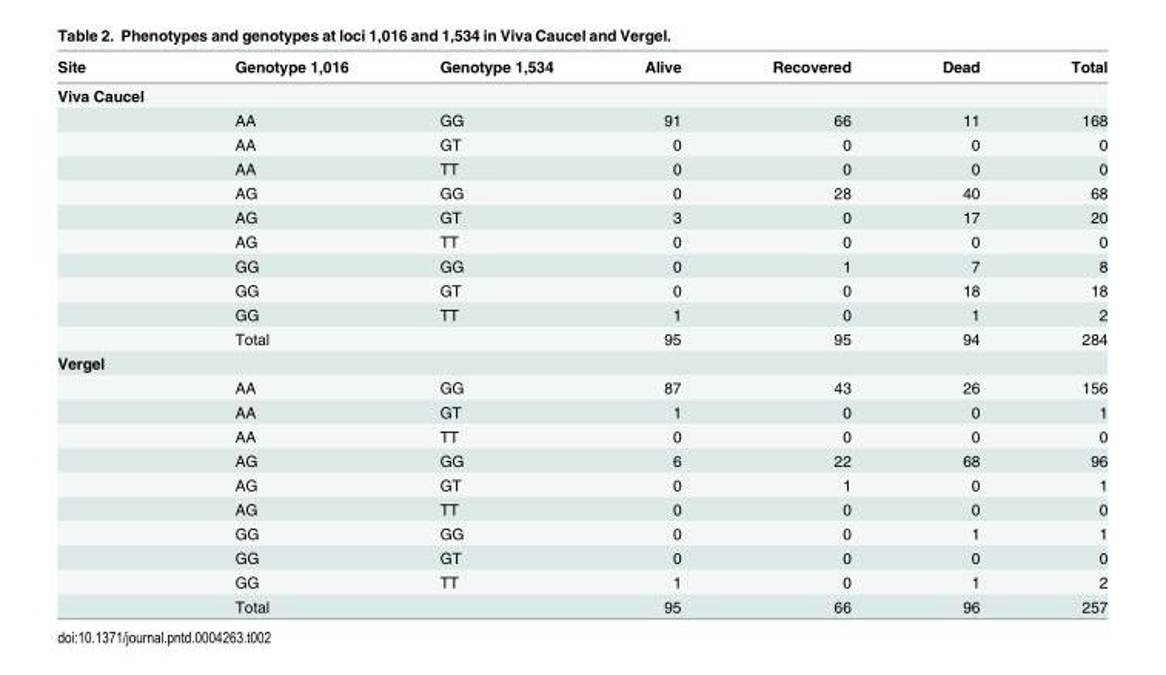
<table><thead><tr><td>Site</td><td>Genotype 1,016</td><td>Genotype 1,534</td><td>Alive</td><td>Recovered</td><td>Dead</td><td>Total</td></tr></thead><tbody><tr><td colspan="7">Viva Caucel</td></tr><tr><td></td><td>AA</td><td>GG</td><td>91</td><td>66</td><td>11</td><td>168</td></tr><tr><td></td><td>AA</td><td>GT</td><td>0</td><td>0</td><td>0</td><td>0</td></tr><tr><td></td><td>AA</td><td>TT</td><td>0</td><td>0</td><td>0</td><td>0</td></tr><tr><td></td><td>AG</td><td>GG</td><td>0</td><td>28</td><td>40</td><td>68</td></tr><tr><td></td><td>AG</td><td>GT</td><td>3</td><td>0</td><td>17</td><td>20</td></tr><tr><td></td><td>AG</td><td>TT</td><td>0</td><td>0</td><td>0</td><td>0</td></tr><tr><td></td><td>GG</td><td>GG</td><td>0</td><td>1</td><td>7</td><td>8</td></tr><tr><td></td><td>GG</td><td>GT</td><td>0</td><td>0</td><td>18</td><td>18</td></tr><tr><td></td><td>GG</td><td>TT</td><td>1</td><td>0</td><td>1</td><td>2</td></tr><tr><td></td><td>Total</td><td></td><td>95</td><td>95</td><td>94</td><td>284</td></tr><tr><td colspan="7">Vergel</td></tr><tr><td></td><td>AA</td><td>GG</td><td>87</td><td>43</td><td>26</td><td>156</td></tr><tr><td></td><td>AA</td><td>GT</td><td>1</td><td>0</td><td>0</td><td>1</td></tr><tr><td></td><td>AA</td><td>TT</td><td>0</td><td>0</td><td>0</td><td>0</td></tr><tr><td></td><td>AG</td><td>GG</td><td>6</td><td>22</td><td>68</td><td>96</td></tr><tr><td></td><td>AG</td><td>GT</td><td>0</td><td>1</td><td>0</td><td>1</td></tr><tr><td></td><td>AG</td><td>TT</td><td>0</td><td>0</td><td>0</td><td>0</td></tr><tr><td></td><td>GG</td><td>GG</td><td>0</td><td>0</td><td>1</td><td>1</td></tr><tr><td></td><td>GG</td><td>GT</td><td>0</td><td>0</td><td>0</td><td>0</td></tr><tr><td></td><td>GG</td><td>TT</td><td>1</td><td>0</td><td>1</td><td>2</td></tr><tr><td></td><td>Total</td><td></td><td>95</td><td>66</td><td>96</td><td>257</td></tr></tbody></table>